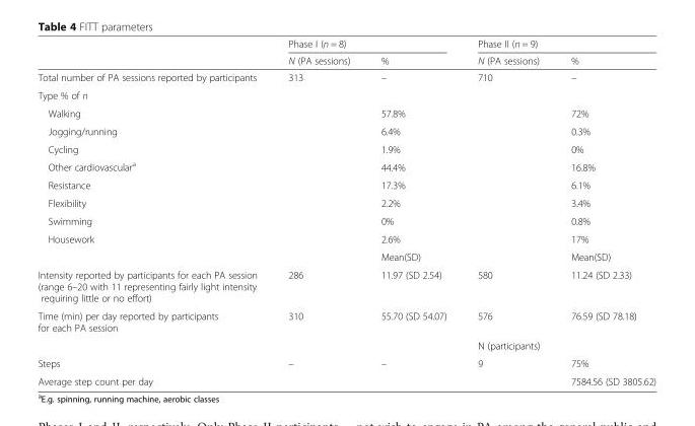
<table><thead><tr><td rowspan="2"></td><td colspan="2">Phase I (n = 8)</td><td colspan="2">Phase II (n = 9)</td></tr><tr><td>N (PA sessions)</td><td>%</td><td>N (PA sessions)</td><td>%</td></tr></thead><tbody><tr><td>Total number of PA sessions reported by participants</td><td>313</td><td>–</td><td>710</td><td>–</td></tr><tr><td colspan="5">Type % of n</td></tr><tr><td>Walking</td><td></td><td>57.8%</td><td></td><td>72%</td></tr><tr><td>Jogging/running</td><td></td><td>6.4%</td><td></td><td>0.3%</td></tr><tr><td>Cycling</td><td></td><td>1.9%</td><td></td><td>0%</td></tr><tr><td>Other cardiovascular<sup>a</sup></td><td></td><td>44.4%</td><td></td><td>16.8%</td></tr><tr><td>Resistance</td><td></td><td>17.3%</td><td></td><td>6.1%</td></tr><tr><td>Flexibility</td><td></td><td>2.2%</td><td></td><td>3.4%</td></tr><tr><td>Swimming</td><td></td><td>0%</td><td></td><td>0.8%</td></tr><tr><td rowspan="2">Housework</td><td></td><td>2.6%</td><td></td><td>17%</td></tr><tr><td></td><td>Mean(SD)</td><td></td><td>Mean(SD)</td></tr><tr><td>Intensity reported by participants for each PA session (range 6–20 with 11 representing fairly light intensity requiring little or no effort)</td><td>286</td><td>11.97 (SD 2.54)</td><td>580</td><td>11.24 (SD 2.33)</td></tr><tr><td rowspan="2">Time (min) per day reported by participants for each PA session</td><td>310</td><td>55.70 (SD 54.07)</td><td>576</td><td>76.59 (SD 78.18)</td></tr><tr><td></td><td></td><td>N (participants)</td><td></td></tr><tr><td>Steps</td><td>–</td><td>–</td><td>9</td><td>75%</td></tr><tr><td>Average step count per day</td><td></td><td></td><td></td><td>7584.56 (SD 3805.62)</td></tr></tbody></table>